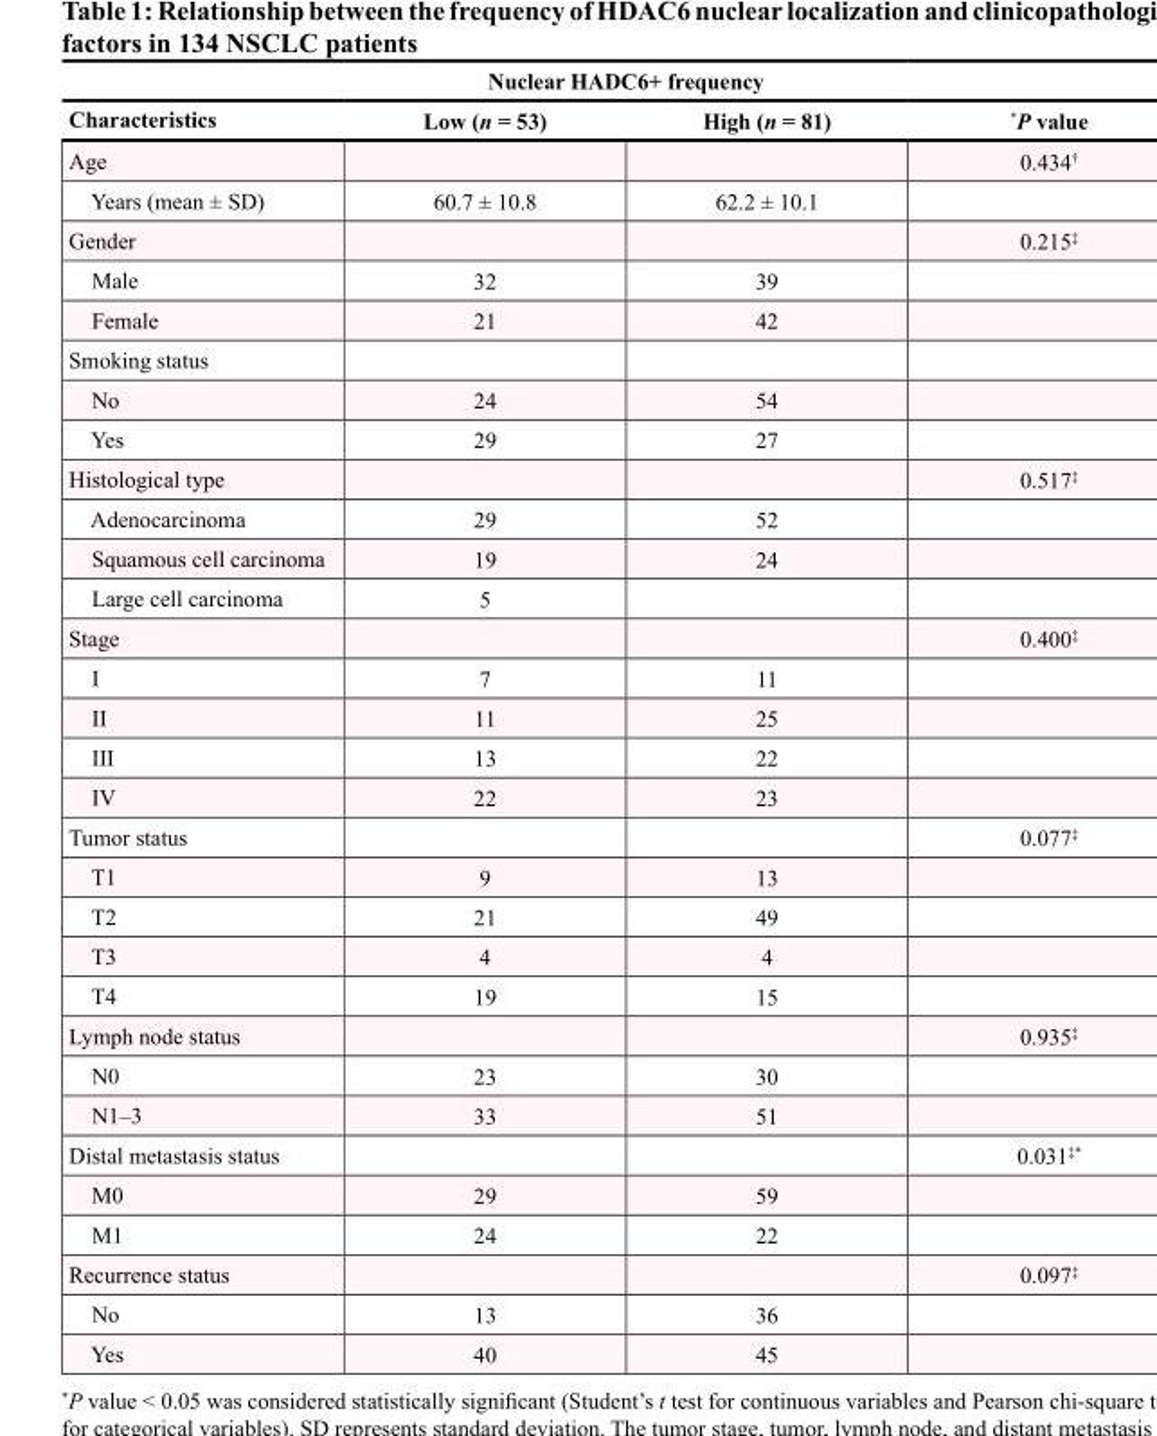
<table><thead><tr><td colspan="4">Nuclear HADC6+ frequency</td></tr><tr><td>Characteristics</td><td>Low (n = 53)</td><td>High (n = 81)</td><td>*P value</td></tr></thead><tbody><tr><td>Age</td><td></td><td></td><td>0.434<sup>†</sup></td></tr><tr><td>Years (mean ± SD)</td><td>60.7 ± 10.8</td><td>62.2 ± 10.1</td><td></td></tr><tr><td>Gender</td><td></td><td></td><td>0.215<sup>‡</sup></td></tr><tr><td>Male</td><td>32</td><td>39</td><td></td></tr><tr><td>Female</td><td>21</td><td>42</td><td></td></tr><tr><td colspan="4">Smoking status</td></tr><tr><td>No</td><td>24</td><td>54</td><td></td></tr><tr><td>Yes</td><td>29</td><td>27</td><td></td></tr><tr><td>Histological type</td><td></td><td></td><td>0.517<sup>‡</sup></td></tr><tr><td>Adenocarcinoma</td><td>29</td><td>52</td><td></td></tr><tr><td>Squamous cell carcinoma</td><td>19</td><td>24</td><td></td></tr><tr><td>Large cell carcinoma</td><td>5</td><td></td><td></td></tr><tr><td>Stage</td><td></td><td></td><td>0.400<sup>‡</sup></td></tr><tr><td>I</td><td>7</td><td>11</td><td></td></tr><tr><td>II</td><td>11</td><td>25</td><td></td></tr><tr><td>III</td><td>13</td><td>22</td><td></td></tr><tr><td>IV</td><td>22</td><td>23</td><td></td></tr><tr><td>Tumor status</td><td></td><td></td><td>0.077<sup>‡</sup></td></tr><tr><td>T1</td><td>9</td><td>13</td><td></td></tr><tr><td>T2</td><td>21</td><td>49</td><td></td></tr><tr><td>T3</td><td>4</td><td>4</td><td></td></tr><tr><td>T4</td><td>19</td><td>15</td><td></td></tr><tr><td>Lymph node status</td><td></td><td></td><td>0.935<sup>‡</sup></td></tr><tr><td>N0</td><td>23</td><td>30</td><td></td></tr><tr><td>N1–3</td><td>33</td><td>51</td><td></td></tr><tr><td>Distal metastasis status</td><td></td><td></td><td>0.031<sup>‡</sup>*</td></tr><tr><td>M0</td><td>29</td><td>59</td><td></td></tr><tr><td>M1</td><td>24</td><td>22</td><td></td></tr><tr><td>Recurrence status</td><td></td><td></td><td>0.097<sup>‡</sup></td></tr><tr><td>No</td><td>13</td><td>36</td><td></td></tr><tr><td>Yes</td><td>40</td><td>45</td><td></td></tr></tbody></table>